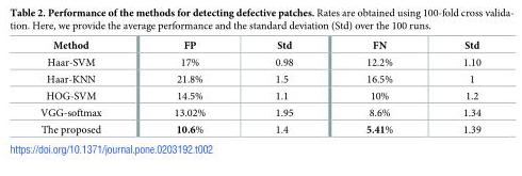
<table><thead><tr><td>Method</td><td>FP</td><td>Std</td><td>FN</td><td>Std</td></tr></thead><tbody><tr><td>Haar-SVM</td><td>17%</td><td>0.98</td><td>12.2%</td><td>1.10</td></tr><tr><td>Haar-KNN</td><td>21.8%</td><td>1.5</td><td>16.5%</td><td>1</td></tr><tr><td>HOG-SVM</td><td>14.5%</td><td>1.1</td><td>10%</td><td>1.2</td></tr><tr><td>VGG-softmax</td><td>13.02%</td><td>1.95</td><td>8.6%</td><td>1.34</td></tr><tr><td>The proposed</td><td>10.6%</td><td>1.4</td><td>5.41%</td><td>1.39</td></tr></tbody></table>